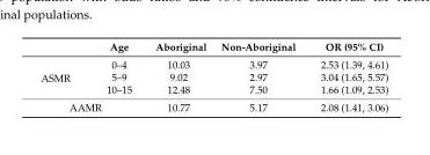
<table><thead><tr><td></td><td>Age</td><td>Aboriginal</td><td>Non-Aboriginal</td><td>OR (95% CI)</td></tr></thead><tbody><tr><td rowspan="3">ASMR</td><td>0–4</td><td>10.03</td><td>3.97</td><td>2.53 (1.39, 4.61)</td></tr><tr><td>5–9</td><td>9.02</td><td>2.97</td><td>3.04 (1.65, 5.57)</td></tr><tr><td>10–15</td><td>12.48</td><td>7.50</td><td>1.66 (1.09, 2.53)</td></tr><tr><td colspan="2">AAMR</td><td>10.77</td><td>5.17</td><td>2.08 (1.41, 3.06)</td></tr></tbody></table>